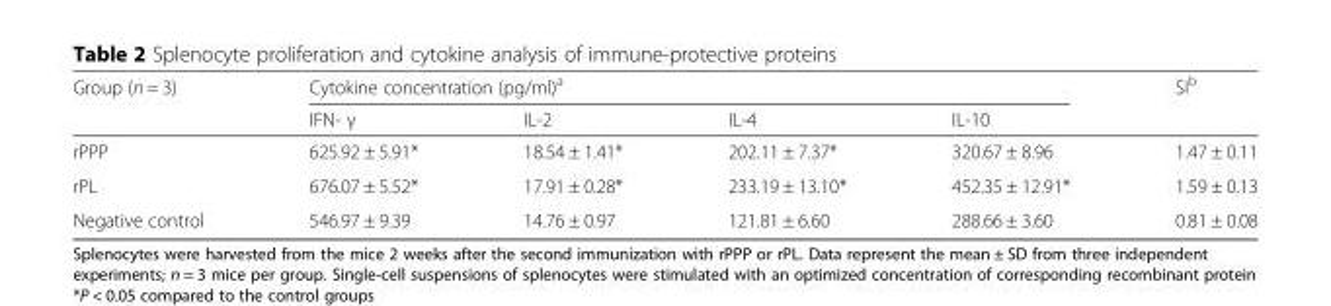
<table><thead><tr><td rowspan="2">Group (n = 3)</td><td colspan="4">Cytokine concentration (pg/ml)<sup>a</sup></td><td rowspan="2">SI<sup>b</sup></td></tr><tr><td>IFN- γ</td><td>IL-2</td><td>IL-4</td><td>IL-10</td></tr></thead><tbody><tr><td>rPPP</td><td>625.92 ± 5.91*</td><td>18.54 ± 1.41*</td><td>202.11 ± 7.37*</td><td>320.67 ± 8.96</td><td>1.47 ± 0.11</td></tr><tr><td>rPL</td><td>676.07 ± 5.52*</td><td>17.91 ± 0.28*</td><td>233.19 ± 13.10*</td><td>452.35 ± 12.91*</td><td>1.59 ± 0.13</td></tr><tr><td>Negative control</td><td>546.97 ± 9.39</td><td>14.76 ± 0.97</td><td>121.81 ± 6.60</td><td>288.66 ± 3.60</td><td>0.81 ± 0.08</td></tr></tbody></table>